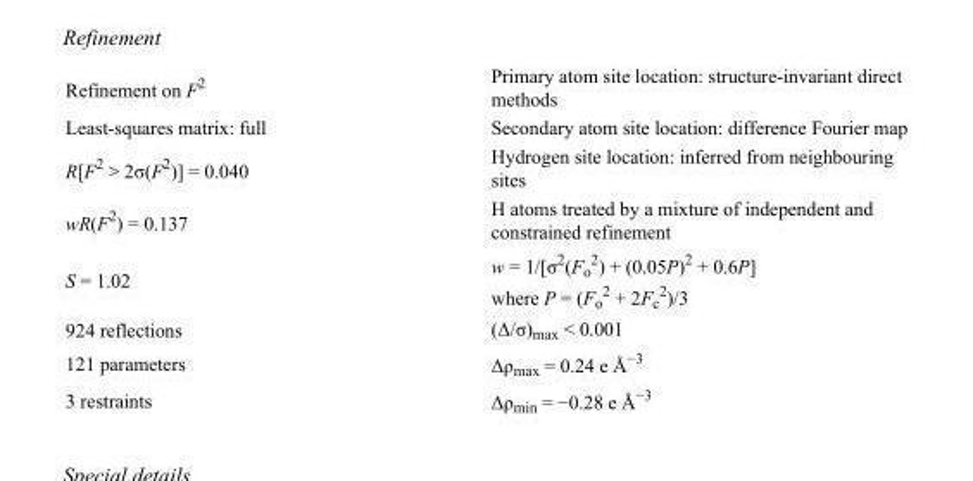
<table><tbody><tr><td>Refinement on F<sup>2</sup></td><td>Primary atom site location: structure-invariant direct methods</td></tr><tr><td>Least-squares matrix: full</td><td>Secondary atom site location: difference Fourier map</td></tr><tr><td>R[F<sup>2</sup> &gt; 2σ(F<sup>2</sup>)] = 0.040</td><td>Hydrogen site location: inferred from neighbouring sites</td></tr><tr><td>wR(F<sup>2</sup>) = 0.137</td><td>H atoms treated by a mixture of independent and constrained refinement</td></tr><tr><td>S = 1.02</td><td>w = 1/[σ<sup>2</sup>(F<sub>o</sub> <sup>2</sup>) + (0.05P)<sup>2</sup> + 0.6P] where P = (F<sub>o</sub> <sup>2</sup> + 2F<sub>c</sub> <sup>2</sup>)/3</td></tr><tr><td>924 reflections</td><td>(Δ/σ)<sub>max</sub> &lt; 0.001</td></tr><tr><td>121 parameters</td><td>Δρ<sub>max</sub> = 0.24 e Å<sup>−3</sup></td></tr><tr><td>3 restraints</td><td>Δρ<sub>min</sub> = −0.28 e Å<sup>−3</sup></td></tr></tbody></table>